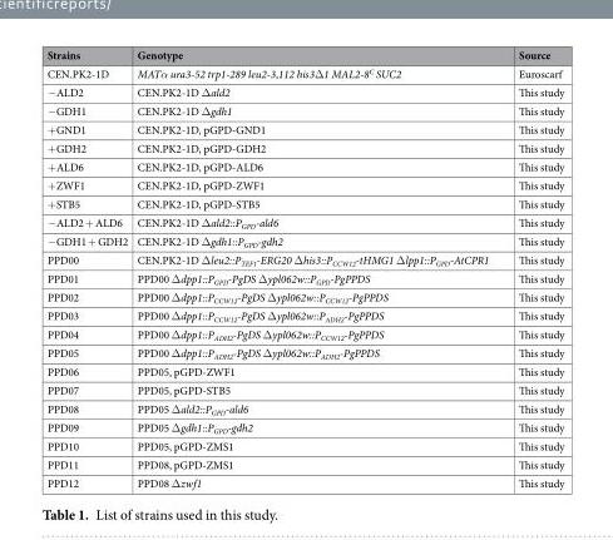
<table><thead><tr><td>Strains</td><td>Genotype</td><td>Source</td></tr></thead><tbody><tr><td>CEN.PK2-1D</td><td>MATα ura3-52 trp1-289 leu2-3,112 his3Δ1 MAL2-8<sup>C</sup> SUC2</td><td>Euroscarf</td></tr><tr><td>−ALD2</td><td>CEN.PK2-1D Δald2</td><td>This study</td></tr><tr><td>−GDH1</td><td>CEN.PK2-1D Δgdh1</td><td>This study</td></tr><tr><td>+GND1</td><td>CEN.PK2-1D, pGPD-GND1</td><td>This study</td></tr><tr><td>+GDH2</td><td>CEN.PK2-1D, pGPD-GDH2</td><td>This study</td></tr><tr><td>+ALD6</td><td>CEN.PK2-1D, pGPD-ALD6</td><td>This study</td></tr><tr><td>+ZWF1</td><td>CEN.PK2-1D, pGPD-ZWF1</td><td>This study</td></tr><tr><td>+STB5</td><td>CEN.PK2-1D, pGPD-STB5</td><td>This study</td></tr><tr><td>−ALD2 + ALD6</td><td>CEN.PK2-1D Δald2::P<sub>GPD</sub>-ald6</td><td>This study</td></tr><tr><td>−GDH1 + GDH2</td><td>CEN.PK2-1D Δgdh1::P<sub>GPD</sub>-gdh2</td><td>This study</td></tr><tr><td>PPD00</td><td>CEN.PK2-1D Δleu2::P<sub>TEF1</sub>-ERG20 Δhis3::P<sub>CCW12</sub>-tHMG1 Δlpp1::P<sub>GPD</sub>-AtCPR1</td><td>This study</td></tr><tr><td>PPD01</td><td>PPD00 Δdpp1::P<sub>GPD</sub>-PgDS Δypl062w::P<sub>GPD</sub>-PgPPDS</td><td>This study</td></tr><tr><td>PPD02</td><td>PPD00 Δdpp1::P<sub>CCW12</sub>-PgDS Δypl062w::P<sub>CCW12</sub>-PgPPDS</td><td>This study</td></tr><tr><td>PPD03</td><td>PPD00 Δdpp1::P<sub>CCW12</sub>-PgDS Δypl062w::P<sub>ADH2</sub>-PgPPDS</td><td>This study</td></tr><tr><td>PPD04</td><td>PPD00 Δdpp1::P<sub>ADH2</sub>-PgDS Δypl062w::P<sub>CCW12</sub>-PgPPDS</td><td>This study</td></tr><tr><td>PPD05</td><td>PPD00 Δdpp1::P<sub>ADH2</sub>-PgDS Δypl062w::P<sub>ADH2</sub>-PgPPDS</td><td>This study</td></tr><tr><td>PPD06</td><td>PPD05, pGPD-ZWF1</td><td>This study</td></tr><tr><td>PPD07</td><td>PPD05, pGPD-STB5</td><td>This study</td></tr><tr><td>PPD08</td><td>PPD05 Δald2::P<sub>GPD</sub>-ald6</td><td>This study</td></tr><tr><td>PPD09</td><td>PPD05 Δgdh1::P<sub>GPD</sub>-gdh2</td><td>This study</td></tr><tr><td>PPD10</td><td>PPD05, pGPD-ZMS1</td><td>This study</td></tr><tr><td>PPD11</td><td>PPD08, pGPD-ZMS1</td><td>This study</td></tr><tr><td>PPD12</td><td>PPD08 Δzwf1</td><td>This study</td></tr></tbody></table>